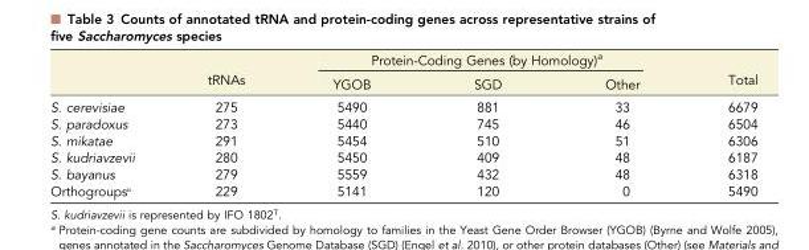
<table><thead><tr><td rowspan="2"></td><td rowspan="2">tRNAs</td><td colspan="3">Protein-Coding Genes (by Homology)a</td><td rowspan="2">Total</td></tr><tr><td>YGOB</td><td>SGD</td><td>Other</td></tr></thead><tbody><tr><td>S. cerevisiae</td><td>275</td><td>5490</td><td>881</td><td>33</td><td>6679</td></tr><tr><td>S. paradoxus</td><td>273</td><td>5440</td><td>745</td><td>46</td><td>6504</td></tr><tr><td>S. mikatae</td><td>291</td><td>5454</td><td>510</td><td>51</td><td>6306</td></tr><tr><td>S. kudriavzevii</td><td>280</td><td>5450</td><td>409</td><td>48</td><td>6187</td></tr><tr><td>S. bayanus</td><td>279</td><td>5559</td><td>432</td><td>48</td><td>6318</td></tr><tr><td>Orthogroups<sup>b</sup></td><td>229</td><td>5141</td><td>120</td><td>0</td><td>5490</td></tr></tbody></table>